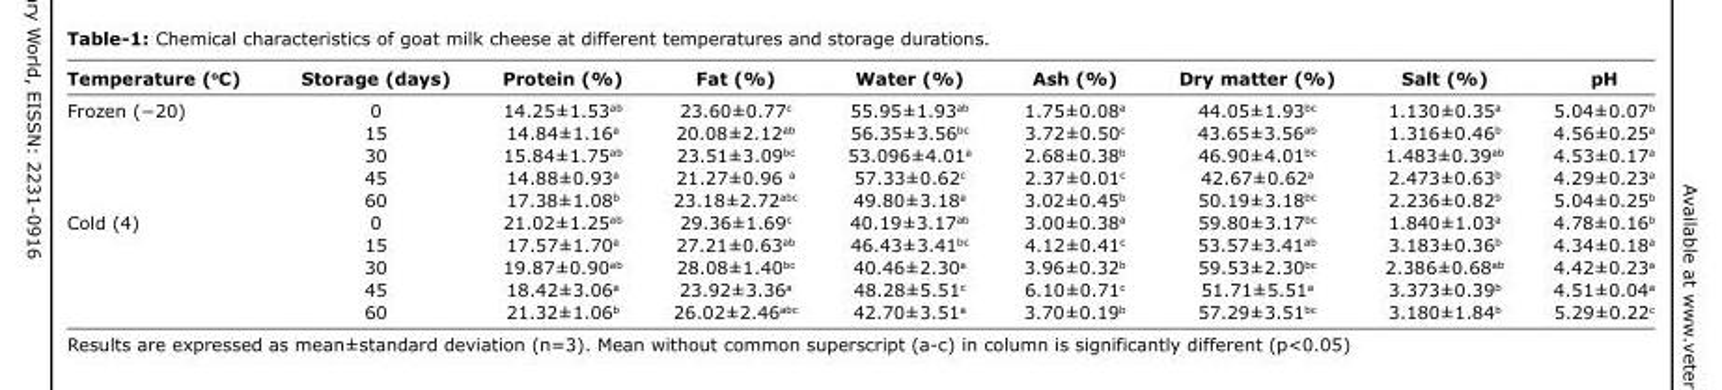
<table><thead><tr><td>Temperature (°C)</td><td>Storage (days)</td><td>Protein (%)</td><td>Fat (%)</td><td>Water (%)</td><td>Ash (%)</td><td>Dry matter (%)</td><td>Salt (%)</td><td>pH</td></tr></thead><tbody><tr><td rowspan="5">Frozen (−20)</td><td>0</td><td>14.25±1.53<sup>ab</sup></td><td>23.60±0.77<sup>c</sup></td><td>55.95±1.93<sup>ab</sup></td><td>1.75±0.08<sup>a</sup></td><td>44.05±1.93<sup>bc</sup></td><td>1.130±0.35<sup>a</sup></td><td>5.04±0.07<sup>b</sup></td></tr><tr><td>15</td><td>14.84±1.16<sup>a</sup></td><td>20.08±2.12<sup>ab</sup></td><td>56.35±3.56<sup>bc</sup></td><td>3.72±0.50<sup>c</sup></td><td>43.65±3.56<sup>ab</sup></td><td>1.316±0.46<sup>b</sup></td><td>4.56±0.25<sup>a</sup></td></tr><tr><td>30</td><td>15.84±1.75<sup>ab</sup></td><td>23.51±3.09<sup>bc</sup></td><td>53.096±4.01<sup>a</sup></td><td>2.68±0.38<sup>b</sup></td><td>46.90±4.01<sup>bc</sup></td><td>1.483±0.39<sup>ab</sup></td><td>4.53±0.17<sup>a</sup></td></tr><tr><td>45</td><td>14.88±0.93<sup>a</sup></td><td>21.27±0.96 <sup>a</sup></td><td>57.33±0.62<sup>c</sup></td><td>2.37±0.01<sup>c</sup></td><td>42.67±0.62<sup>a</sup></td><td>2.473±0.63<sup>b</sup></td><td>4.29±0.23<sup>a</sup></td></tr><tr><td>60</td><td>17.38±1.08<sup>b</sup></td><td>23.18±2.72<sup>abc</sup></td><td>49.80±3.18<sup>a</sup></td><td>3.02±0.45<sup>b</sup></td><td>50.19±3.18<sup>bc</sup></td><td>2.236±0.82<sup>b</sup></td><td>5.04±0.25<sup>b</sup></td></tr><tr><td rowspan="5">Cold (4)</td><td>0</td><td>21.02±1.25<sup>ab</sup></td><td>29.36±1.69<sup>c</sup></td><td>40.19±3.17<sup>ab</sup></td><td>3.00±0.38<sup>a</sup></td><td>59.80±3.17<sup>bc</sup></td><td>1.840±1.03<sup>a</sup></td><td>4.78±0.16<sup>b</sup></td></tr><tr><td>15</td><td>17.57±1.70<sup>a</sup></td><td>27.21±0.63<sup>ab</sup></td><td>46.43±3.41<sup>bc</sup></td><td>4.12±0.41<sup>c</sup></td><td>53.57±3.41<sup>ab</sup></td><td>3.183±0.36<sup>b</sup></td><td>4.34±0.18<sup>a</sup></td></tr><tr><td>30</td><td>19.87±0.90<sup>ab</sup></td><td>28.08±1.40<sup>bc</sup></td><td>40.46±2.30<sup>a</sup></td><td>3.96±0.32<sup>b</sup></td><td>59.53±2.30<sup>bc</sup></td><td>2.386±0.68<sup>ab</sup></td><td>4.42±0.23<sup>a</sup></td></tr><tr><td>45</td><td>18.42±3.06<sup>a</sup></td><td>23.92±3.36<sup>a</sup></td><td>48.28±5.51<sup>c</sup></td><td>6.10±0.71<sup>c</sup></td><td>51.71±5.51<sup>a</sup></td><td>3.373±0.39<sup>b</sup></td><td>4.51±0.04<sup>a</sup></td></tr><tr><td>60</td><td>21.32±1.06<sup>b</sup></td><td>26.02±2.46<sup>abc</sup></td><td>42.70±3.51<sup>a</sup></td><td>3.70±0.19<sup>b</sup></td><td>57.29±3.51<sup>bc</sup></td><td>3.180±1.84<sup>b</sup></td><td>5.29±0.22<sup>c</sup></td></tr></tbody></table>